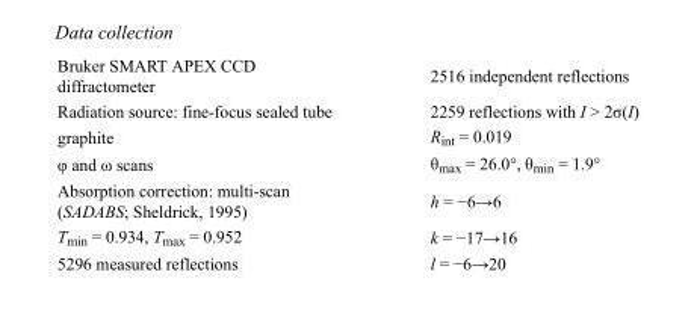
<table><tbody><tr><td>Bruker SMART APEX CCD diffractometer</td><td>2516 independent reflections</td></tr><tr><td>Radiation source: fine-focus sealed tube</td><td>2259 reflections with I &gt; 2σ(I)</td></tr><tr><td>graphite</td><td>R<sub>int</sub> = 0.019</td></tr><tr><td>φ and ω scans</td><td>θ<sub>max</sub> = 26.0°, θ<sub>min</sub> = 1.9°</td></tr><tr><td>Absorption correction: multi-scan (SADABS; Sheldrick, 1995)</td><td>h = −6→6</td></tr><tr><td>T<sub>min</sub> = 0.934, T<sub>max</sub> = 0.952</td><td>k = −17→16</td></tr><tr><td>5296 measured reflections</td><td>l = −6→20</td></tr></tbody></table>